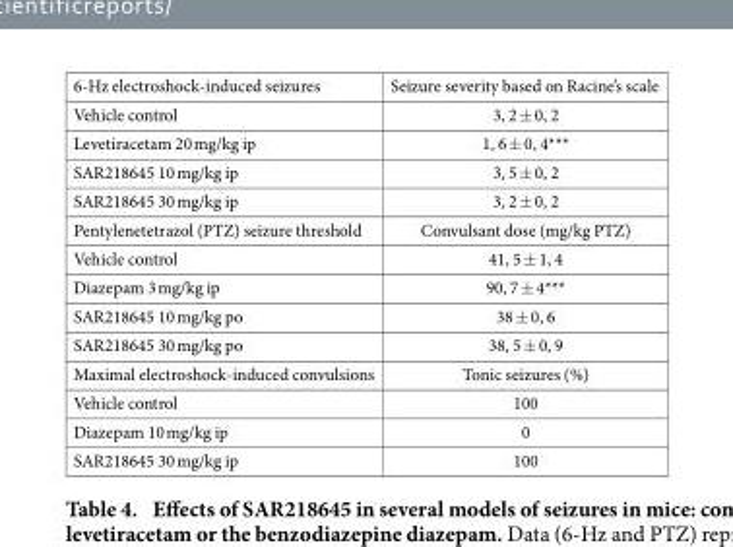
<table><tbody><tr><td>6-Hz electroshock-induced seizures</td><td>Seizure severity based on Racine’s scale</td></tr><tr><td>Vehicle control</td><td>3, 2 ± 0, 2</td></tr><tr><td>Levetiracetam 20 mg/kg ip</td><td>1, 6 ± 0, 4***</td></tr><tr><td>SAR218645 10 mg/kg ip</td><td>3, 5 ± 0, 2</td></tr><tr><td>SAR218645 30 mg/kg ip</td><td>3, 2 ± 0, 2</td></tr><tr><td>Pentylenetetrazol (PTZ) seizure threshold</td><td>Convulsant dose (mg/kg PTZ)</td></tr><tr><td>Vehicle control</td><td>41, 5 ± 1, 4</td></tr><tr><td>Diazepam 3 mg/kg ip</td><td>90, 7 ± 4***</td></tr><tr><td>SAR218645 10 mg/kg po</td><td>38 ± 0, 6</td></tr><tr><td>SAR218645 30 mg/kg po</td><td>38, 5 ± 0, 9</td></tr><tr><td>Maximal electroshock-induced convulsions</td><td>Tonic seizures (%)</td></tr><tr><td>Vehicle control</td><td>100</td></tr><tr><td>Diazepam 10 mg/kg ip</td><td>0</td></tr><tr><td>SAR218645 30 mg/kg ip</td><td>100</td></tr></tbody></table>